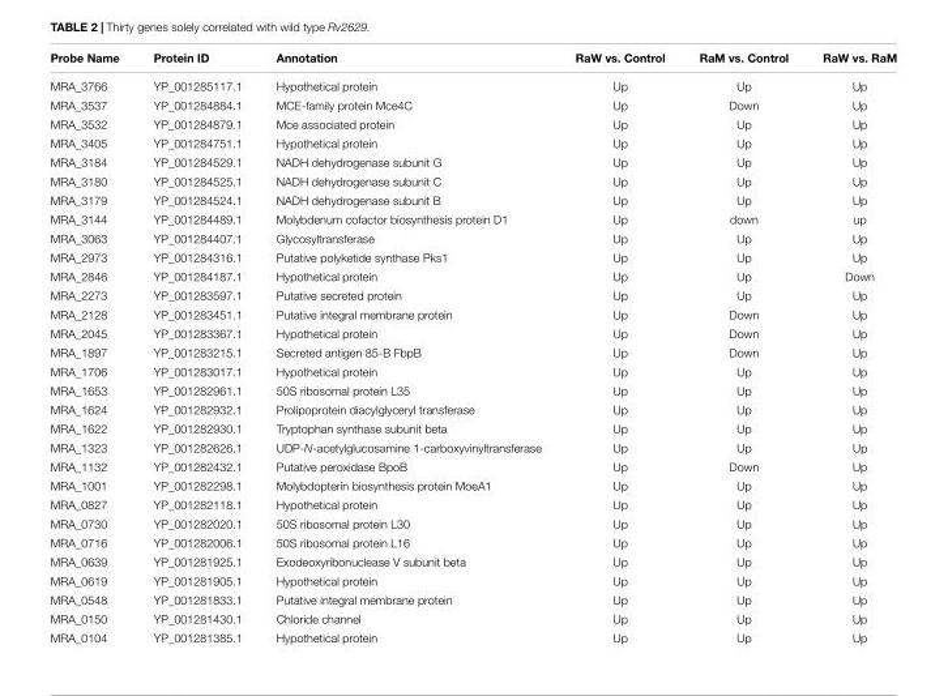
<table><thead><tr><td>Probe Name</td><td>Protein ID</td><td>Annotation</td><td>RaW vs. Control</td><td>RaM vs. Control</td><td>RaW vs. RaM</td></tr></thead><tbody><tr><td>MRA_3766</td><td>YP_001285117.1</td><td>Hypothetical protein</td><td>Up</td><td>Up</td><td>Up</td></tr><tr><td>MRA_3537</td><td>YP_001284884.1</td><td>MCE-family protein Mce4C</td><td>Up</td><td>Down</td><td>Up</td></tr><tr><td>MRA_3532</td><td>YP_001284879.1</td><td>Mce associated protein</td><td>Up</td><td>Up</td><td>Up</td></tr><tr><td>MRA_3405</td><td>YP_001284751.1</td><td>Hypothetical protein</td><td>Up</td><td>Up</td><td>Up</td></tr><tr><td>MRA_3184</td><td>YP_001284529.1</td><td>NADH dehydrogenase subunit G</td><td>Up</td><td>Up</td><td>Up</td></tr><tr><td>MRA_3180</td><td>YP_001284525.1</td><td>NADH dehydrogenase subunit C</td><td>Up</td><td>Up</td><td>Up</td></tr><tr><td>MRA_3179</td><td>YP_001284524.1</td><td>NADH dehydrogenase subunit B</td><td>Up</td><td>Up</td><td>Up</td></tr><tr><td>MRA_3144</td><td>YP_001284489.1</td><td>Molybdenum cofactor biosynthesis protein D1</td><td>Up</td><td>down</td><td>up</td></tr><tr><td>MRA_3063</td><td>YP_001284407.1</td><td>Glycosyltransferase</td><td>Up</td><td>Up</td><td>Up</td></tr><tr><td>MRA_2973</td><td>YP_001284316.1</td><td>Putative polyketide synthase Pks1</td><td>Up</td><td>Up</td><td>Up</td></tr><tr><td>MRA_2846</td><td>YP_001284187.1</td><td>Hypothetical protein</td><td>Up</td><td>Up</td><td>Down</td></tr><tr><td>MRA_2273</td><td>YP_001283597.1</td><td>Putative secreted protein</td><td>Up</td><td>Up</td><td>Up</td></tr><tr><td>MRA_2128</td><td>YP_001283451.1</td><td>Putative integral membrane protein</td><td>Up</td><td>Down</td><td>Up</td></tr><tr><td>MRA_2045</td><td>YP_001283367.1</td><td>Hypothetical protein</td><td>Up</td><td>Down</td><td>Up</td></tr><tr><td>MRA_1897</td><td>YP_001283215.1</td><td>Secreted antigen 85-B FbpB</td><td>Up</td><td>Down</td><td>Up</td></tr><tr><td>MRA_1706</td><td>YP_001283017.1</td><td>Hypothetical protein</td><td>Up</td><td>Up</td><td>Up</td></tr><tr><td>MRA_1653</td><td>YP_001282961.1</td><td>50S ribosomal protein L35</td><td>Up</td><td>Up</td><td>Up</td></tr><tr><td>MRA_1624</td><td>YP_001282932.1</td><td>Prolipoprotein diacylglyceryl transferase</td><td>Up</td><td>Up</td><td>Up</td></tr><tr><td>MRA_1622</td><td>YP_001282930.1</td><td>Tryptophan synthase subunit beta</td><td>Up</td><td>Up</td><td>Up</td></tr><tr><td>MRA_1323</td><td>YP_001282626.1</td><td>UDP-N-acetylglucosamine 1-carboxyvinyltransferase</td><td>Up</td><td>Up</td><td>Up</td></tr><tr><td>MRA_1132</td><td>YP_001282432.1</td><td>Putative peroxidase BpoB</td><td>Up</td><td>Down</td><td>Up</td></tr><tr><td>MRA_1001</td><td>YP_001282298.1</td><td>Molybdopterin biosynthesis protein MoeA1</td><td>Up</td><td>Up</td><td>Up</td></tr><tr><td>MRA_0827</td><td>YP_001282118.1</td><td>Hypothetical protein</td><td>Up</td><td>Up</td><td>Up</td></tr><tr><td>MRA_0730</td><td>YP_001282020.1</td><td>50S ribosomal protein L30</td><td>Up</td><td>Up</td><td>Up</td></tr><tr><td>MRA_0716</td><td>YP_001282006.1</td><td>50S ribosomal protein L16</td><td>Up</td><td>Up</td><td>Up</td></tr><tr><td>MRA_0639</td><td>YP_001281925.1</td><td>Exodeoxyribonuclease V subunit beta</td><td>Up</td><td>Up</td><td>Up</td></tr><tr><td>MRA_0619</td><td>YP_001281905.1</td><td>Hypothetical protein</td><td>Up</td><td>Up</td><td>Up</td></tr><tr><td>MRA_0548</td><td>YP_001281833.1</td><td>Putative integral membrane protein</td><td>Up</td><td>Up</td><td>Up</td></tr><tr><td>MRA_0150</td><td>YP_001281430.1</td><td>Chloride channel</td><td>Up</td><td>Up</td><td>Up</td></tr><tr><td>MRA_0104</td><td>YP_001281385.1</td><td>Hypothetical protein</td><td>Up</td><td>Up</td><td>Up</td></tr></tbody></table>